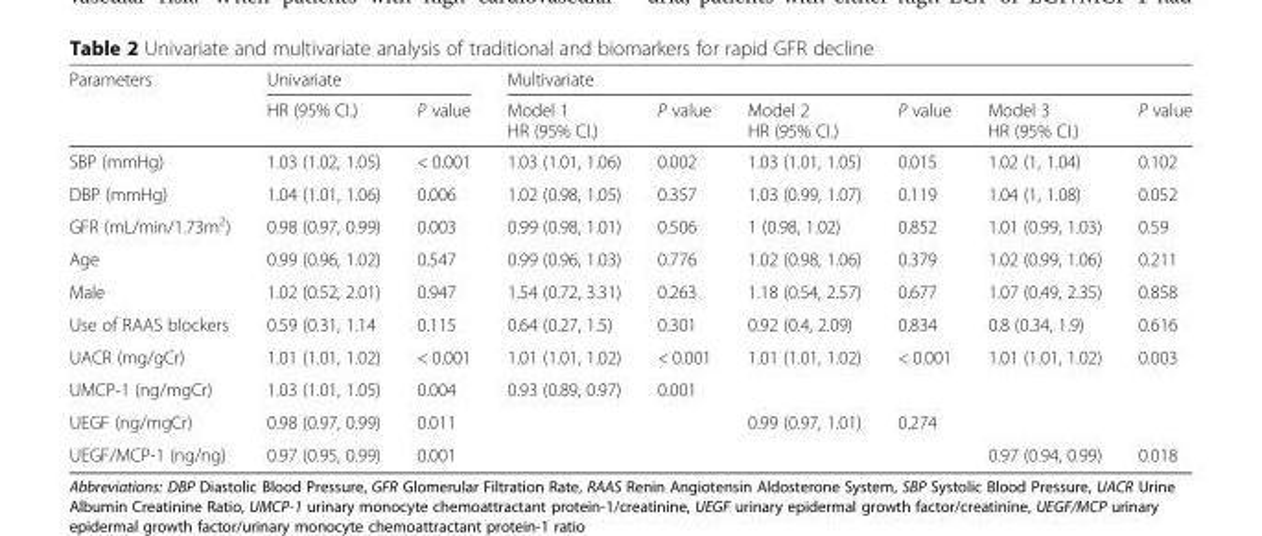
<table><thead><tr><td rowspan="2">Parameters</td><td colspan="2">Univariate</td><td colspan="6">Multivariate</td></tr><tr><td>HR (95% CI.)</td><td>P value</td><td>Model 1 HR (95% CI.)</td><td>P value</td><td>Model 2 HR (95% CI.)</td><td>P value</td><td>Model 3 HR (95% CI.)</td><td>P value</td></tr></thead><tbody><tr><td>SBP (mmHg)</td><td>1.03 (1.02, 1.05)</td><td>&lt; 0.001</td><td>1.03 (1.01, 1.06)</td><td>0.002</td><td>1.03 (1.01, 1.05)</td><td>0.015</td><td>1.02 (1, 1.04)</td><td>0.102</td></tr><tr><td>DBP (mmHg)</td><td>1.04 (1.01, 1.06)</td><td>0.006</td><td>1.02 (0.98, 1.05)</td><td>0.357</td><td>1.03 (0.99, 1.07)</td><td>0.119</td><td>1.04 (1, 1.08)</td><td>0.052</td></tr><tr><td>GFR (mL/min/1.73m<sup>2</sup>)</td><td>0.98 (0.97, 0.99)</td><td>0.003</td><td>0.99 (0.98, 1.01)</td><td>0.506</td><td>1 (0.98, 1.02)</td><td>0.852</td><td>1.01 (0.99, 1.03)</td><td>0.59</td></tr><tr><td>Age</td><td>0.99 (0.96, 1.02)</td><td>0.547</td><td>0.99 (0.96, 1.03)</td><td>0.776</td><td>1.02 (0.98, 1.06)</td><td>0.379</td><td>1.02 (0.99, 1.06)</td><td>0.211</td></tr><tr><td>Male</td><td>1.02 (0.52, 2.01)</td><td>0.947</td><td>1.54 (0.72, 3.31)</td><td>0.263</td><td>1.18 (0.54, 2.57)</td><td>0.677</td><td>1.07 (0.49, 2.35)</td><td>0.858</td></tr><tr><td>Use of RAAS blockers</td><td>0.59 (0.31, 1.14</td><td>0.115</td><td>0.64 (0.27, 1.5)</td><td>0.301</td><td>0.92 (0.4, 2.09)</td><td>0.834</td><td>0.8 (0.34, 1.9)</td><td>0.616</td></tr><tr><td>UACR (mg/gCr)</td><td>1.01 (1.01, 1.02)</td><td>&lt; 0.001</td><td>1.01 (1.01, 1.02)</td><td>&lt; 0.001</td><td>1.01 (1.01, 1.02)</td><td>&lt; 0.001</td><td>1.01 (1.01, 1.02)</td><td>0.003</td></tr><tr><td>UMCP-1 (ng/mgCr)</td><td>1.03 (1.01, 1.05)</td><td>0.004</td><td>0.93 (0.89, 0.97)</td><td>0.001</td><td></td><td></td><td></td><td></td></tr><tr><td>UEGF (ng/mgCr)</td><td>0.98 (0.97, 0.99)</td><td>0.011</td><td></td><td></td><td>0.99 (0.97, 1.01)</td><td>0.274</td><td></td><td></td></tr><tr><td>UEGF/MCP-1 (ng/ng)</td><td>0.97 (0.95, 0.99)</td><td>0.001</td><td></td><td></td><td></td><td></td><td>0.97 (0.94, 0.99)</td><td>0.018</td></tr></tbody></table>